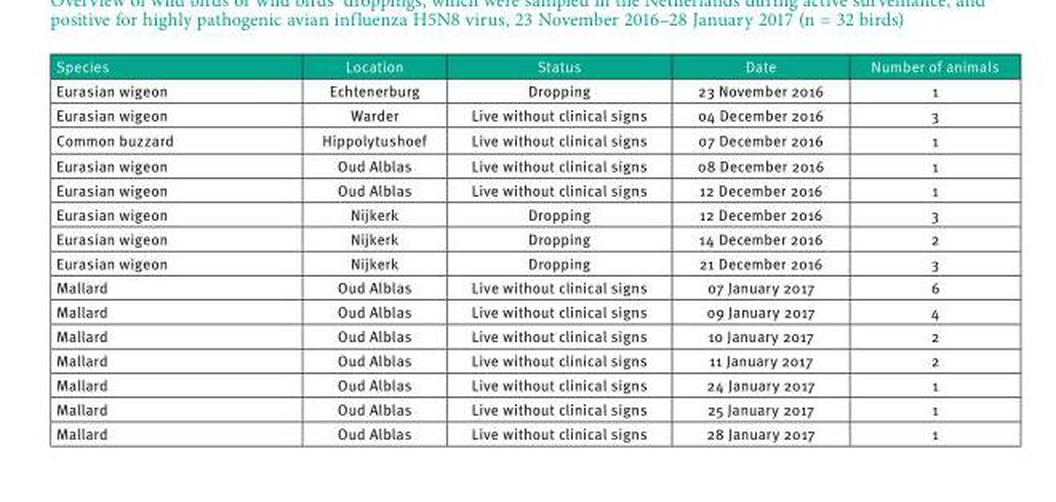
<table><thead><tr><td>Species</td><td>Location</td><td>Status</td><td>Date</td><td>Number of animals</td></tr></thead><tbody><tr><td>Eurasian wigeon</td><td>Echtenerburg</td><td>Dropping</td><td>23 November 2016</td><td>1</td></tr><tr><td>Eurasian wigeon</td><td>Warder</td><td>Live without clinical signs</td><td>04 December 2016</td><td>3</td></tr><tr><td>Common buzzard</td><td>Hippolytushoef</td><td>Live without clinical signs</td><td>07 December 2016</td><td>1</td></tr><tr><td>Eurasian wigeon</td><td>Oud Alblas</td><td>Live without clinical signs</td><td>08 December 2016</td><td>1</td></tr><tr><td>Eurasian wigeon</td><td>Oud Alblas</td><td>Live without clinical signs</td><td>12 December 2016</td><td>1</td></tr><tr><td>Eurasian wigeon</td><td>Nijkerk</td><td>Dropping</td><td>12 December 2016</td><td>3</td></tr><tr><td>Eurasian wigeon</td><td>Nijkerk</td><td>Dropping</td><td>14 December 2016</td><td>2</td></tr><tr><td>Eurasian wigeon</td><td>Nijkerk</td><td>Dropping</td><td>21 December 2016</td><td>3</td></tr><tr><td>Mallard</td><td>Oud Alblas</td><td>Live without clinical signs</td><td>07 January 2017</td><td>6</td></tr><tr><td>Mallard</td><td>Oud Alblas</td><td>Live without clinical signs</td><td>09 January 2017</td><td>4</td></tr><tr><td>Mallard</td><td>Oud Alblas</td><td>Live without clinical signs</td><td>10 January 2017</td><td>2</td></tr><tr><td>Mallard</td><td>Oud Alblas</td><td>Live without clinical signs</td><td>11 January 2017</td><td>2</td></tr><tr><td>Mallard</td><td>Oud Alblas</td><td>Live without clinical signs</td><td>24 January 2017</td><td>1</td></tr><tr><td>Mallard</td><td>Oud Alblas</td><td>Live without clinical signs</td><td>25 January 2017</td><td>1</td></tr><tr><td>Mallard</td><td>Oud Alblas</td><td>Live without clinical signs</td><td>28 January 2017</td><td>1</td></tr></tbody></table>